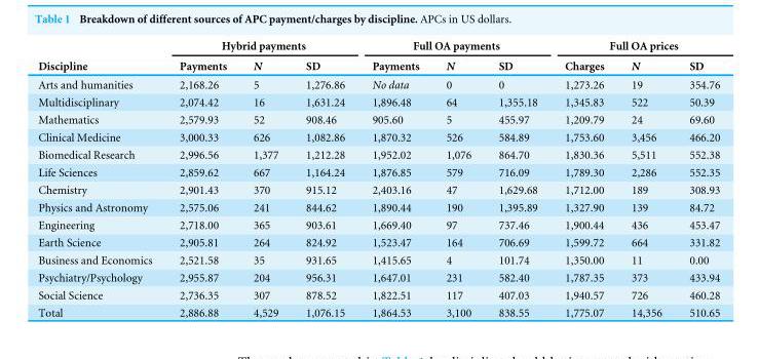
<table><thead><tr><td rowspan="2">Discipline</td><td colspan="3">Hybrid payments</td><td colspan="3">Full OA payments</td><td colspan="3">Full OA prices</td></tr><tr><td>Payments</td><td>N</td><td>SD</td><td>Payments</td><td>N</td><td>SD</td><td>Charges</td><td>N</td><td>SD</td></tr></thead><tbody><tr><td>Arts and humanities</td><td>2,168.26</td><td>5</td><td>1,276.86</td><td>No data</td><td>0</td><td>0</td><td>1,273.26</td><td>19</td><td>354.76</td></tr><tr><td>Multidisciplinary</td><td>2,074.42</td><td>16</td><td>1,631.24</td><td>1,896.48</td><td>64</td><td>1,355.18</td><td>1,345.83</td><td>522</td><td>50.39</td></tr><tr><td>Mathematics</td><td>2,579.93</td><td>52</td><td>908.46</td><td>905.60</td><td>5</td><td>455.97</td><td>1,209.79</td><td>24</td><td>69.60</td></tr><tr><td>Clinical Medicine</td><td>3,000.33</td><td>626</td><td>1,082.86</td><td>1,870.32</td><td>526</td><td>584.89</td><td>1,753.60</td><td>3,456</td><td>466.20</td></tr><tr><td>Biomedical Research</td><td>2,996.56</td><td>1,377</td><td>1,212.28</td><td>1,952.02</td><td>1,076</td><td>864.70</td><td>1,830.36</td><td>5,511</td><td>552.38</td></tr><tr><td>Life Sciences</td><td>2,859.62</td><td>667</td><td>1,164.24</td><td>1,876.85</td><td>579</td><td>716.09</td><td>1,789.30</td><td>2,286</td><td>552.35</td></tr><tr><td>Chemistry</td><td>2,901.43</td><td>370</td><td>915.12</td><td>2,403.16</td><td>47</td><td>1,629.68</td><td>1,712.00</td><td>189</td><td>308.93</td></tr><tr><td>Physics and Astronomy</td><td>2,575.06</td><td>241</td><td>844.62</td><td>1,890.44</td><td>190</td><td>1,395.89</td><td>1,327.90</td><td>139</td><td>84.72</td></tr><tr><td>Engineering</td><td>2,718.00</td><td>365</td><td>903.61</td><td>1,669.40</td><td>97</td><td>737.46</td><td>1,900.44</td><td>436</td><td>453.47</td></tr><tr><td>Earth Science</td><td>2,905.81</td><td>264</td><td>824.92</td><td>1,523.47</td><td>164</td><td>706.69</td><td>1,599.72</td><td>664</td><td>331.82</td></tr><tr><td>Business and Economics</td><td>2,521.58</td><td>35</td><td>931.65</td><td>1,415.65</td><td>4</td><td>101.74</td><td>1,350.00</td><td>11</td><td>0.00</td></tr><tr><td>Psychiatry/Psychology</td><td>2,955.87</td><td>204</td><td>956.31</td><td>1,647.01</td><td>231</td><td>582.40</td><td>1,787.35</td><td>373</td><td>433.94</td></tr><tr><td>Social Science</td><td>2,736.35</td><td>307</td><td>878.52</td><td>1,822.51</td><td>117</td><td>407.03</td><td>1,940.57</td><td>726</td><td>460.28</td></tr><tr><td>Total</td><td>2,886.88</td><td>4,529</td><td>1,076.15</td><td>1,864.53</td><td>3,100</td><td>838.55</td><td>1,775.07</td><td>14,356</td><td>510.65</td></tr></tbody></table>